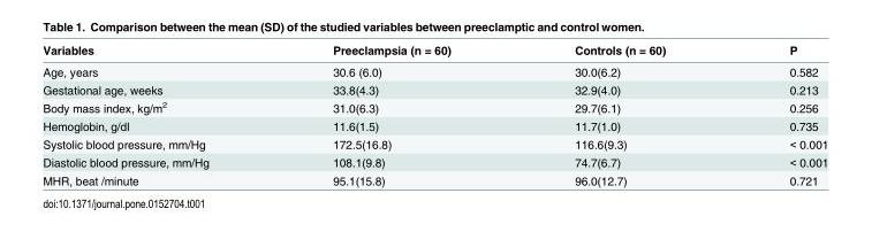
<table><thead><tr><td>Variables</td><td>Preeclampsia (n = 60)</td><td>Controls (n = 60)</td><td>P</td></tr></thead><tbody><tr><td>Age, years</td><td>30.6 (6.0)</td><td>30.0(6.2)</td><td>0.582</td></tr><tr><td>Gestational age, weeks</td><td>33.8(4.3)</td><td>32.9(4.0)</td><td>0.213</td></tr><tr><td>Body mass index, kg/m<sup>2</sup></td><td>31.0(6.3)</td><td>29.7(6.1)</td><td>0.256</td></tr><tr><td>Hemoglobin, g/dl</td><td>11.6(1.5)</td><td>11.7(1.0)</td><td>0.735</td></tr><tr><td>Systolic blood pressure, mm/Hg</td><td>172.5(16.8)</td><td>116.6(9.3)</td><td>&lt; 0.001</td></tr><tr><td>Diastolic blood pressure, mm/Hg</td><td>108.1(9.8)</td><td>74.7(6.7)</td><td>&lt; 0.001</td></tr><tr><td>MHR, beat /minute</td><td>95.1(15.8)</td><td>96.0(12.7)</td><td>0.721</td></tr></tbody></table>